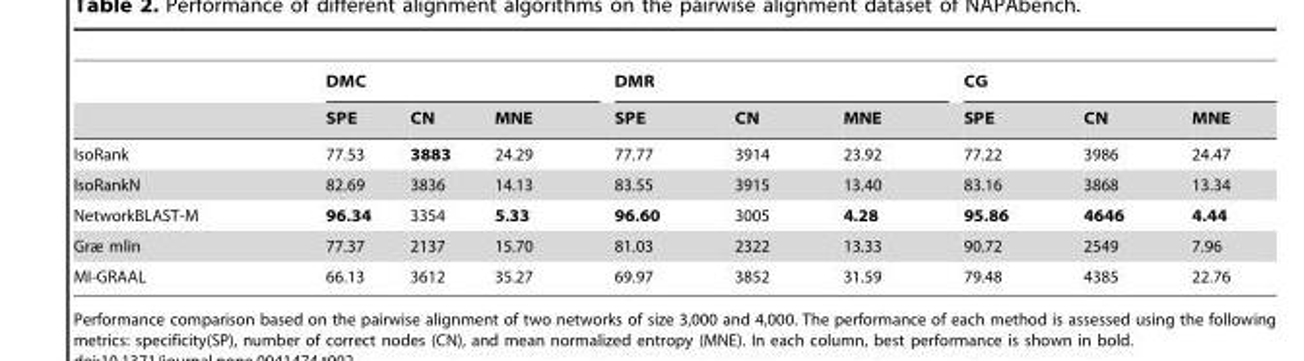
<table><thead><tr><td rowspan="2"></td><td colspan="3">DMC</td><td colspan="3">DMR</td><td colspan="3">CG</td></tr><tr><td>SPE</td><td>CN</td><td>MNE</td><td>SPE</td><td>CN</td><td>MNE</td><td>SPE</td><td>CN</td><td>MNE</td></tr></thead><tbody><tr><td>IsoRank</td><td>77.53</td><td>3883</td><td>24.29</td><td>77.77</td><td>3914</td><td>23.92</td><td>77.22</td><td>3986</td><td>24.47</td></tr><tr><td>IsoRankN</td><td>82.69</td><td>3836</td><td>14.13</td><td>83.55</td><td>3915</td><td>13.40</td><td>83.16</td><td>3868</td><td>13.34</td></tr><tr><td>NetworkBLAST-M</td><td>96.34</td><td>3354</td><td>5.33</td><td>96.60</td><td>3005</td><td>4.28</td><td>95.86</td><td>4646</td><td>4.44</td></tr><tr><td>Græ mlin</td><td>77.37</td><td>2137</td><td>15.70</td><td>81.03</td><td>2322</td><td>13.33</td><td>90.72</td><td>2549</td><td>7.96</td></tr><tr><td>MI-GRAAL</td><td>66.13</td><td>3612</td><td>35.27</td><td>69.97</td><td>3852</td><td>31.59</td><td>79.48</td><td>4385</td><td>22.76</td></tr></tbody></table>